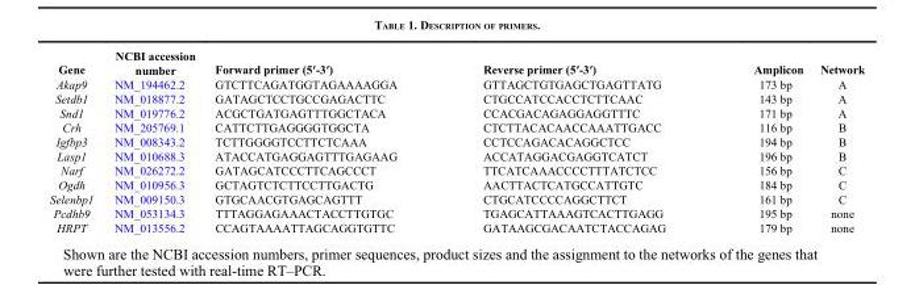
<table><thead><tr><td>Gene</td><td>NCBI accession number</td><td>Forward primer (5′-3′)</td><td>Reverse primer (5′-3′)</td><td>Amplicon</td><td>Network</td></tr></thead><tbody><tr><td>Akap9</td><td>NM_194462.2</td><td>GTCTTCAGATGGTAGAAAAGGA</td><td>GTTAGCTGTGAGCTGAGTTATG</td><td>173 bp</td><td>A</td></tr><tr><td>Setdb1</td><td>NM_018877.2</td><td>GATAGCTCCTGCCGAGACTTC</td><td>CTGCCATCCACCTCTTCAAC</td><td>143 bp</td><td>A</td></tr><tr><td>Snd1</td><td>NM_019776.2</td><td>ACGCTGATGAGTTTGGCTACA</td><td>CCACGACAGAGGAGGTTTC</td><td>171 bp</td><td>A</td></tr><tr><td>Crh</td><td>NM_205769.1</td><td>CATTCTTGAGGGGTGGCTA</td><td>CTCTTACACAACCAAATTGACC</td><td>116 bp</td><td>B</td></tr><tr><td>Igfbp3</td><td>NM_008343.2</td><td>TCTTGGGGTCCTTCTCAAA</td><td>CCTCCAGACACAGGCTCC</td><td>194 bp</td><td>B</td></tr><tr><td>Lasp1</td><td>NM_010688.3</td><td>ATACCATGAGGAGTTTGAGAAG</td><td>ACCATAGGACGAGGTCATCT</td><td>196 bp</td><td>B</td></tr><tr><td>Narf</td><td>NM_026272.2</td><td>GATAGCATCCCTTCAGCCCT</td><td>TTCATCAAACCCCTTTATCTCC</td><td>156 bp</td><td>C</td></tr><tr><td>Ogdh</td><td>NM_010956.3</td><td>GCTAGTCTCTTCCTTGACTG</td><td>AACTTACTCATGCCATTGTC</td><td>184 bp</td><td>C</td></tr><tr><td>Selenbp1</td><td>NM_009150.3</td><td>GTGCAACGTGAGCAGTTT</td><td>CTGCATCCCCAGGCTTCT</td><td>161 bp</td><td>C</td></tr><tr><td>Pcdhb9</td><td>NM_053134.3</td><td>TTTAGGAGAAACTACCTTGTGC</td><td>TGAGCATTAAAGTCACTTGAGG</td><td>195 bp</td><td>none</td></tr><tr><td>HRPT</td><td>NM_013556.2</td><td>CCAGTAAAATTAGCAGGTGTTC</td><td>GATAAGCGACAATCTACCAGAG</td><td>179 bp</td><td>none</td></tr></tbody></table>